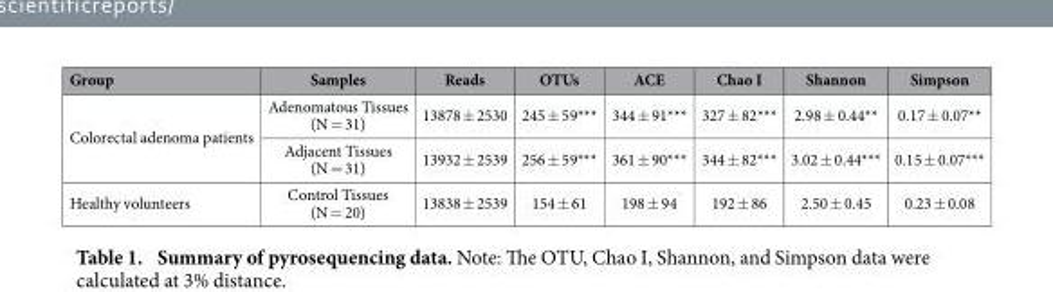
<table><thead><tr><td>Group</td><td>Samples</td><td>Reads</td><td>OTUs</td><td>ACE</td><td>Chao I</td><td>Shannon</td><td>Simpson</td></tr></thead><tbody><tr><td rowspan="2">Colorectal adenoma patients</td><td>Adenomatous Tissues (N = 31)</td><td>13878 ± 2530</td><td>245 ± 59***</td><td>344 ± 91***</td><td>327 ± 82***</td><td>2.98 ± 0.44**</td><td>0.17 ± 0.07**</td></tr><tr><td>Adjacent Tissues (N = 31)</td><td>13932 ± 2539</td><td>256 ± 59***</td><td>361 ± 90***</td><td>344 ± 82***</td><td>3.02 ± 0.44***</td><td>0.15 ± 0.07***</td></tr><tr><td>Healthy volunteers</td><td>Control Tissues (N = 20)</td><td>13838 ± 2539</td><td>154 ± 61</td><td>198 ± 94</td><td>192 ± 86</td><td>2.50 ± 0.45</td><td>0.23 ± 0.08</td></tr></tbody></table>